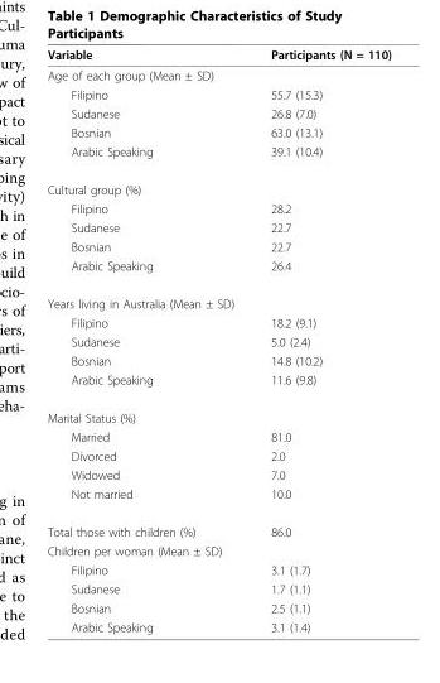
<table><thead><tr><td>Variable</td><td>Participants (N = 110)</td></tr></thead><tbody><tr><td colspan="2">Age of each group (Mean ± SD)</td></tr><tr><td>Filipino</td><td>55.7 (15.3)</td></tr><tr><td>Sudanese</td><td>26.8 (7.0)</td></tr><tr><td>Bosnian</td><td>63.0 (13.1)</td></tr><tr><td>Arabic Speaking</td><td>39.1 (10.4)</td></tr><tr><td colspan="2">Cultural group (%)</td></tr><tr><td>Filipino</td><td>28.2</td></tr><tr><td>Sudanese</td><td>22.7</td></tr><tr><td>Bosnian</td><td>22.7</td></tr><tr><td>Arabic Speaking</td><td>26.4</td></tr><tr><td colspan="2">Years living in Australia (Mean ± SD)</td></tr><tr><td>Filipino</td><td>18.2 (9.1)</td></tr><tr><td>Sudanese</td><td>5.0 (2.4)</td></tr><tr><td>Bosnian</td><td>14.8 (10.2)</td></tr><tr><td>Arabic Speaking</td><td>11.6 (9.8)</td></tr><tr><td colspan="2">Marital Status (%)</td></tr><tr><td>Married</td><td>81.0</td></tr><tr><td>Divorced</td><td>2.0</td></tr><tr><td>Widowed</td><td>7.0</td></tr><tr><td>Not married</td><td>10.0</td></tr><tr><td>Total those with children (%)</td><td>86.0</td></tr><tr><td colspan="2">Children per woman (Mean ± SD)</td></tr><tr><td>Filipino</td><td>3.1 (1.7)</td></tr><tr><td>Sudanese</td><td>1.7 (1.1)</td></tr><tr><td>Bosnian</td><td>2.5 (1.1)</td></tr><tr><td>Arabic Speaking</td><td>3.1 (1.4)</td></tr></tbody></table>